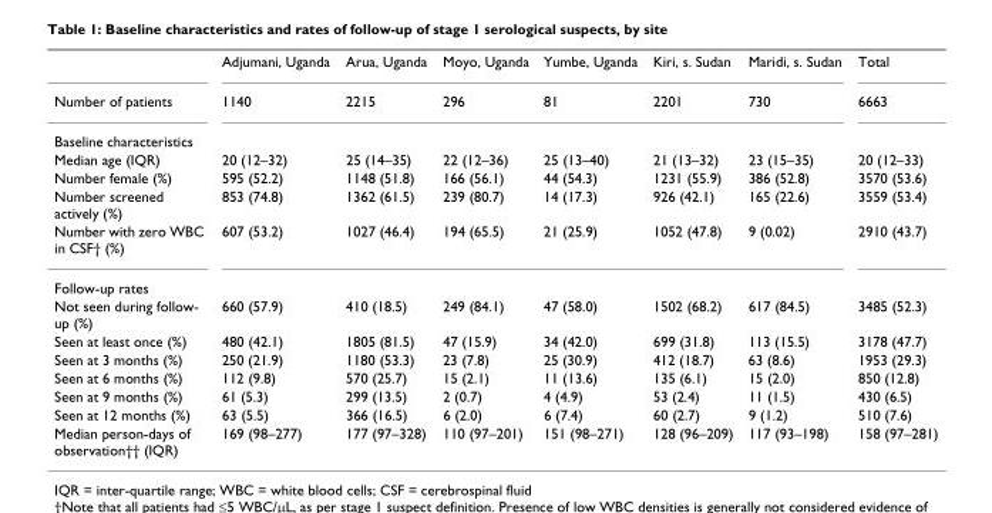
<table><thead><tr><td></td><td>Adjumani, Uganda</td><td>Arua, Uganda</td><td>Moyo, Uganda</td><td>Yumbe, Uganda</td><td>Kiri, s. Sudan</td><td>Maridi, s. Sudan</td><td>Total</td></tr></thead><tbody><tr><td>Number of patients</td><td>1140</td><td>2215</td><td>296</td><td>81</td><td>2201</td><td>730</td><td>6663</td></tr><tr><td colspan="8">Baseline characteristics</td></tr><tr><td>Median age (IQR)</td><td>20 (12–32)</td><td>25 (14–35)</td><td>22 (12–36)</td><td>25 (13–40)</td><td>21 (13–32)</td><td>23 (15–35)</td><td>20 (12–33)</td></tr><tr><td>Number female (%)</td><td>595 (52.2)</td><td>1148 (51.8)</td><td>166 (56.1)</td><td>44 (54.3)</td><td>1231 (55.9)</td><td>386 (52.8)</td><td>3570 (53.6)</td></tr><tr><td>Number screened actively (%)</td><td>853 (74.8)</td><td>1362 (61.5)</td><td>239 (80.7)</td><td>14 (17.3)</td><td>926 (42.1)</td><td>165 (22.6)</td><td>3559 (53.4)</td></tr><tr><td>Number with zero WBC in CSF† (%)</td><td>607 (53.2)</td><td>1027 (46.4)</td><td>194 (65.5)</td><td>21 (25.9)</td><td>1052 (47.8)</td><td>9 (0.02)</td><td>2910 (43.7)</td></tr><tr><td colspan="8">Follow-up rates</td></tr><tr><td>Not seen during follow- up (%)</td><td>660 (57.9)</td><td>410 (18.5)</td><td>249 (84.1)</td><td>47 (58.0)</td><td>1502 (68.2)</td><td>617 (84.5)</td><td>3485 (52.3)</td></tr><tr><td>Seen at least once (%)</td><td>480 (42.1)</td><td>1805 (81.5)</td><td>47 (15.9)</td><td>34 (42.0)</td><td>699 (31.8)</td><td>113 (15.5)</td><td>3178 (47.7)</td></tr><tr><td>Seen at 3 months (%)</td><td>250 (21.9)</td><td>1180 (53.3)</td><td>23 (7.8)</td><td>25 (30.9)</td><td>412 (18.7)</td><td>63 (8.6)</td><td>1953 (29.3)</td></tr><tr><td>Seen at 6 months (%)</td><td>112 (9.8)</td><td>570 (25.7)</td><td>15 (2.1)</td><td>11 (13.6)</td><td>135 (6.1)</td><td>15 (2.0)</td><td>850 (12.8)</td></tr><tr><td>Seen at 9 months (%)</td><td>61 (5.3)</td><td>299 (13.5)</td><td>2 (0.7)</td><td>4 (4.9)</td><td>53 (2.4)</td><td>11 (1.5)</td><td>430 (6.5)</td></tr><tr><td>Seen at 12 months (%)</td><td>63 (5.5)</td><td>366 (16.5)</td><td>6 (2.0)</td><td>6 (7.4)</td><td>60 (2.7)</td><td>9 (1.2)</td><td>510 (7.6)</td></tr><tr><td>Median person-days of observation†† (IQR)</td><td>169 (98–277)</td><td>177 (97–328)</td><td>110 (97–201)</td><td>151 (98–271)</td><td>128 (96–209)</td><td>117 (93–198)</td><td>158 (97–281)</td></tr></tbody></table>